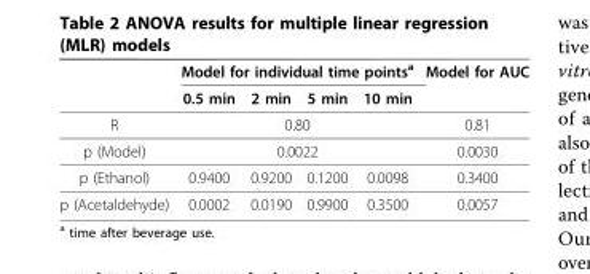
<table><thead><tr><td rowspan="2"></td><td colspan="4">Model for individual time points<sup>a</sup></td><td rowspan="2">Model for AUC</td></tr><tr><td>0.5 min</td><td>2 min</td><td>5 min</td><td>10 min</td></tr></thead><tbody><tr><td>R</td><td colspan="4">0.80</td><td>0.81</td></tr><tr><td>p (Model)</td><td colspan="4">0.0022</td><td>0.0030</td></tr><tr><td>p (Ethanol)</td><td>0.9400</td><td>0.9200</td><td>0.1200</td><td>0.0098</td><td>0.3400</td></tr><tr><td>p (Acetaldehyde)</td><td>0.0002</td><td>0.0190</td><td>0.9900</td><td>0.3500</td><td>0.0057</td></tr></tbody></table>